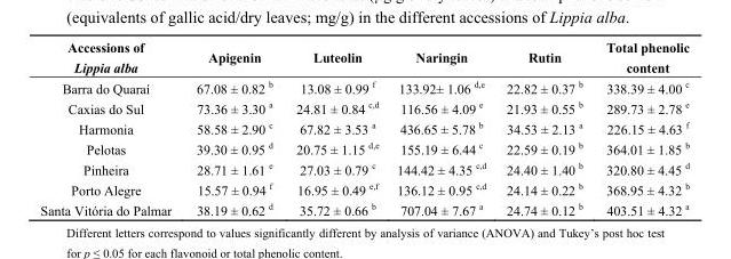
<table><thead><tr><td>Accessions of Lippia alba</td><td>Apigenin</td><td>Luteolin</td><td>Naringin</td><td>Rutin</td><td>Total phenolic content</td></tr></thead><tbody><tr><td>Barra do Quaraí</td><td>67.08 ± 0.82 <sup>b</sup></td><td>13.08 ± 0.99 <sup>f</sup></td><td>133.92± 1.06 <sup>d,e</sup></td><td>22.82 ± 0.37 <sup>b</sup></td><td>338.39 ± 4.00 <sup>c</sup></td></tr><tr><td>Caxias do Sul</td><td>73.36 ± 3.30 <sup>a</sup></td><td>24.81 ± 0.84 <sup>c,d</sup></td><td>116.56 ± 4.09 <sup>e</sup></td><td>21.93 ± 0.55 <sup>b</sup></td><td>289.73 ± 2.78 <sup>e</sup></td></tr><tr><td>Harmonia</td><td>58.58 ± 2.90 <sup>c</sup></td><td>67.82 ± 3.53 <sup>a</sup></td><td>436.65 ± 5.78 <sup>b</sup></td><td>34.53 ± 2.13 <sup>a</sup></td><td>226.15 ± 4.63 <sup>f</sup></td></tr><tr><td>Pelotas</td><td>39.30 ± 0.95 <sup>d</sup></td><td>20.75 ± 1.15 <sup>d,e</sup></td><td>155.19 ± 6.44 <sup>c</sup></td><td>22.59 ± 0.19 <sup>b</sup></td><td>364.01 ± 1.85 <sup>b</sup></td></tr><tr><td>Pinheira</td><td>28.71 ± 1.61 <sup>e</sup></td><td>27.03 ± 0.79 <sup>c</sup></td><td>144.42 ± 4.35 <sup>c,d</sup></td><td>24.40 ± 1.40 <sup>b</sup></td><td>320.80 ± 4.45 <sup>d</sup></td></tr><tr><td>Porto Alegre</td><td>15.57 ± 0.94 <sup>f</sup></td><td>16.95 ± 0.49 <sup>e,f</sup></td><td>136.12 ± 0.95 <sup>c,d</sup></td><td>24.14 ± 0.22 <sup>b</sup></td><td>368.95 ± 4.32 <sup>b</sup></td></tr><tr><td>Santa Vitória do Palmar</td><td>38.19 ± 0.62 <sup>d</sup></td><td>35.72 ± 0.66 <sup>b</sup></td><td>707.04 ± 7.67 <sup>a</sup></td><td>24.74 ± 0.12 <sup>b</sup></td><td>403.51 ± 4.32 <sup>a</sup></td></tr></tbody></table>